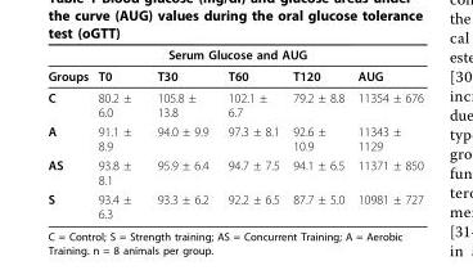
<table><thead><tr><td colspan="6">Serum Glucose and AUG</td></tr><tr><td>Groups</td><td>T0</td><td>T30</td><td>T60</td><td>T120</td><td>AUG</td></tr></thead><tbody><tr><td>C</td><td>80.2 ± 6.0</td><td>105.8 ± 13.8</td><td>102.1 ± 6.7</td><td>79.2 ± 8.8</td><td>11354 ± 676</td></tr><tr><td>A</td><td>91.1 ± 8.9</td><td>94.0 ± 9.9</td><td>97.3 ± 8.1</td><td>92.6 ± 10.9</td><td>11343 ± 1129</td></tr><tr><td>AS</td><td>93.8 ± 8.1</td><td>95.9 ± 6.4</td><td>94.7 ± 7.5</td><td>94.1 ± 6.5</td><td>11371 ± 850</td></tr><tr><td>S</td><td>93.4 ± 6.3</td><td>93.3 ± 6.2</td><td>92.2 ± 6.5</td><td>87.7 ± 5.0</td><td>10981 ± 727</td></tr></tbody></table>